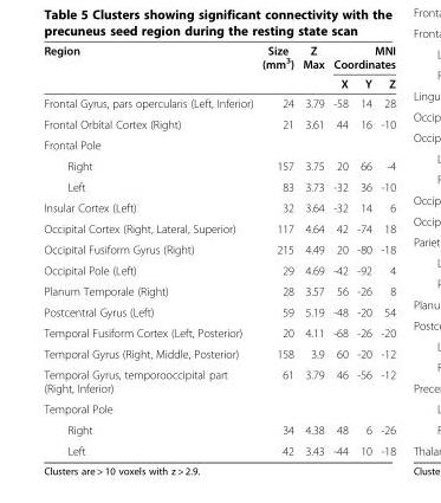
<table><thead><tr><td rowspan="2">Region</td><td rowspan="2">Size (mm<sup>3</sup>)</td><td rowspan="2">Z Max</td><td colspan="3">MNI Coordinates</td></tr><tr><td>X</td><td>Y</td><td>Z</td></tr></thead><tbody><tr><td>Frontal Gyrus, pars opercularis (Left, Inferior)</td><td>24</td><td>3.79</td><td>-58</td><td>14</td><td>28</td></tr><tr><td>Frontal Orbital Cortex (Right)</td><td>21</td><td>3.61</td><td>44</td><td>16</td><td>-10</td></tr><tr><td colspan="6">Frontal Pole</td></tr><tr><td>Right</td><td>157</td><td>3.75</td><td>20</td><td>66</td><td>-4</td></tr><tr><td>Left</td><td>83</td><td>3.73</td><td>-32</td><td>36</td><td>-10</td></tr><tr><td>Insular Cortex (Left)</td><td>32</td><td>3.64</td><td>-32</td><td>14</td><td>6</td></tr><tr><td>Occipital Cortex (Right, Lateral, Superior)</td><td>117</td><td>4.64</td><td>42</td><td>-74</td><td>18</td></tr><tr><td>Occipital Fusiform Gyrus (Right)</td><td>215</td><td>4.49</td><td>20</td><td>-80</td><td>-18</td></tr><tr><td>Occipital Pole (Left)</td><td>29</td><td>4.69</td><td>-42</td><td>-92</td><td>4</td></tr><tr><td>Planum Temporale (Right)</td><td>28</td><td>3.57</td><td>56</td><td>-26</td><td>8</td></tr><tr><td>Postcentral Gyrus (Left)</td><td>59</td><td>5.19</td><td>-48</td><td>-20</td><td>54</td></tr><tr><td>Temporal Fusiform Cortex (Left, Posterior)</td><td>20</td><td>4.11</td><td>-68</td><td>-26</td><td>-20</td></tr><tr><td>Temporal Gyrus (Right, Middle, Posterior)</td><td>158</td><td>3.9</td><td>60</td><td>-20</td><td>-12</td></tr><tr><td>Temporal Gyrus, temporooccipital part (Right, Inferior)</td><td>61</td><td>3.79</td><td>46</td><td>-56</td><td>-12</td></tr><tr><td colspan="6">Temporal Pole</td></tr><tr><td>Right</td><td>34</td><td>4.38</td><td>48</td><td>6</td><td>-26</td></tr><tr><td>Left</td><td>42</td><td>3.43</td><td>-44</td><td>10</td><td>-18</td></tr></tbody></table>